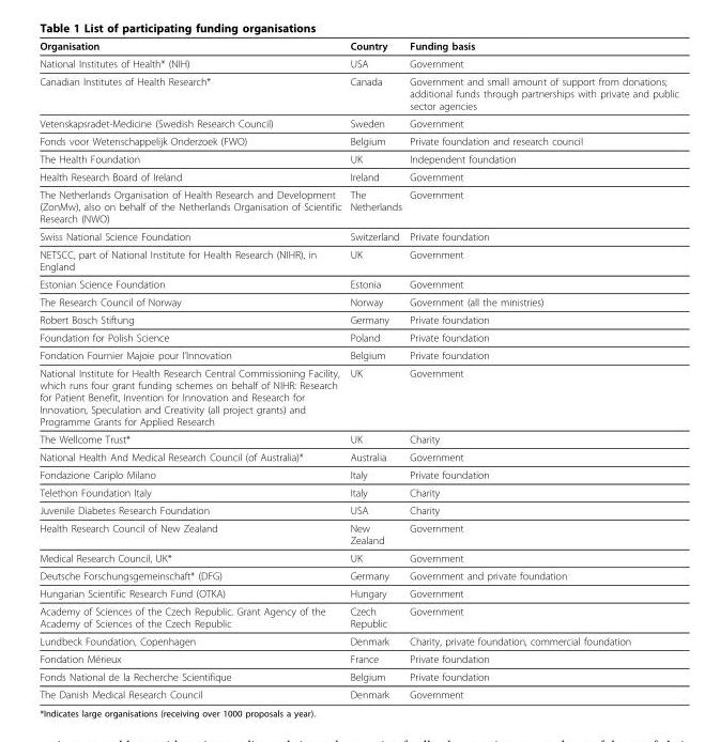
<table><thead><tr><td>Organisation</td><td>Country</td><td>Funding basis</td></tr></thead><tbody><tr><td>National Institutes of Health* (NIH)</td><td>USA</td><td>Government</td></tr><tr><td>Canadian Institutes of Health Research*</td><td>Canada</td><td>Government and small amount of support from donations; additional funds through partnerships with private and public sector agencies</td></tr><tr><td>Vetenskapsradet-Medicine (Swedish Research Council)</td><td>Sweden</td><td>Government</td></tr><tr><td>Fonds voor Wetenschappelijk Onderzoek (FWO)</td><td>Belgium</td><td>Private foundation and research council</td></tr><tr><td>The Health Foundation</td><td>UK</td><td>Independent foundation</td></tr><tr><td>Health Research Board of Ireland</td><td>Ireland</td><td>Government</td></tr><tr><td>The Netherlands Organisation of Health Research and Development (ZonMw), also on behalf of the Netherlands Organisation of Scientific Research (NWO)</td><td>The Netherlands</td><td>Government</td></tr><tr><td>Swiss National Science Foundation</td><td>Switzerland</td><td>Private foundation</td></tr><tr><td>NETSCC, part of National Institute for Health Research (NIHR), in England</td><td>UK</td><td>Government</td></tr><tr><td>Estonian Science Foundation</td><td>Estonia</td><td>Government</td></tr><tr><td>The Research Council of Norway</td><td>Norway</td><td>Government (all the ministries)</td></tr><tr><td>Robert Bosch Stiftung</td><td>Germany</td><td>Private foundation</td></tr><tr><td>Foundation for Polish Science</td><td>Poland</td><td>Private foundation</td></tr><tr><td>Fondation Fournier Majoie pour l’Innovation</td><td>Belgium</td><td>Private foundation</td></tr><tr><td>National Institute for Health Research Central Commissioning Facility, which runs four grant funding schemes on behalf of NIHR: Research for Patient Benefit, Invention for Innovation and Research for Innovation, Speculation and Creativity (all project grants) and Programme Grants for Applied Research</td><td>UK</td><td>Government</td></tr><tr><td>The Wellcome Trust*</td><td>UK</td><td>Charity</td></tr><tr><td>National Health And Medical Research Council (of Australia)*</td><td>Australia</td><td>Government</td></tr><tr><td>Fondazione Cariplo Milano</td><td>Italy</td><td>Private foundation</td></tr><tr><td>Telethon Foundation Italy</td><td>Italy</td><td>Charity</td></tr><tr><td>Juvenile Diabetes Research Foundation</td><td>USA</td><td>Charity</td></tr><tr><td>Health Research Council of New Zealand</td><td>New Zealand</td><td>Government</td></tr><tr><td>Medical Research Council, UK*</td><td>UK</td><td>Government</td></tr><tr><td>Deutsche Forschungsgemeinschaft* (DFG)</td><td>Germany</td><td>Government and private foundation</td></tr><tr><td>Hungarian Scientific Research Fund (OTKA)</td><td>Hungary</td><td>Government</td></tr><tr><td>Academy of Sciences of the Czech Republic. Grant Agency of the Academy of Sciences of the Czech Republic</td><td>Czech Republic</td><td>Government</td></tr><tr><td>Lundbeck Foundation, Copenhagen</td><td>Denmark</td><td>Charity, private foundation, commercial foundation</td></tr><tr><td>Fondation Mérieux</td><td>France</td><td>Private foundation</td></tr><tr><td>Fonds National de la Recherche Scientifique</td><td>Belgium</td><td>Private foundation</td></tr><tr><td>The Danish Medical Research Council</td><td>Denmark</td><td>Government</td></tr></tbody></table>